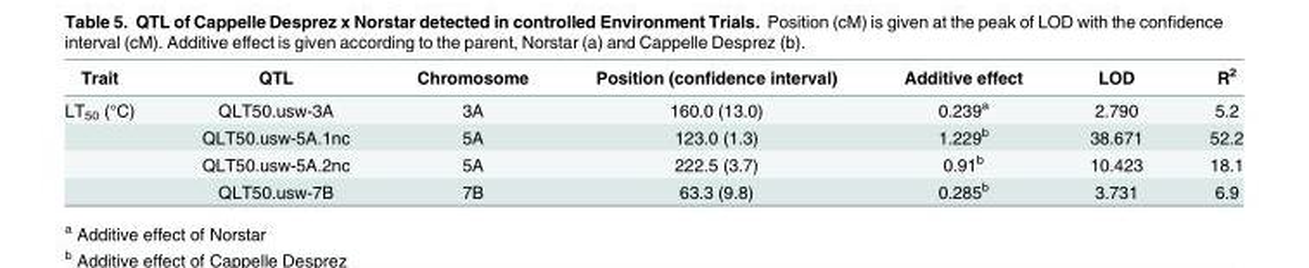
<table><thead><tr><td>Trait</td><td>QTL</td><td>Chromosome</td><td>Position (confidence interval)</td><td>Additive effect</td><td>LOD</td><td>R<sup>2</sup></td></tr></thead><tbody><tr><td rowspan="4">LT<sub>50</sub> (°C)</td><td>QLT50.usw-3A</td><td>3A</td><td>160.0 (13.0)</td><td>0.239<sup>a</sup></td><td>2.790</td><td>5.2</td></tr><tr><td>QLT50.usw-5A.1nc</td><td>5A</td><td>123.0 (1.3)</td><td>1.229<sup>b</sup></td><td>38.671</td><td>52.2</td></tr><tr><td>QLT50.usw-5A.2nc</td><td>5A</td><td>222.5 (3.7)</td><td>0.91<sup>b</sup></td><td>10.423</td><td>18.1</td></tr><tr><td>QLT50.usw-7B</td><td>7B</td><td>63.3 (9.8)</td><td>0.285<sup>b</sup></td><td>3.731</td><td>6.9</td></tr></tbody></table>